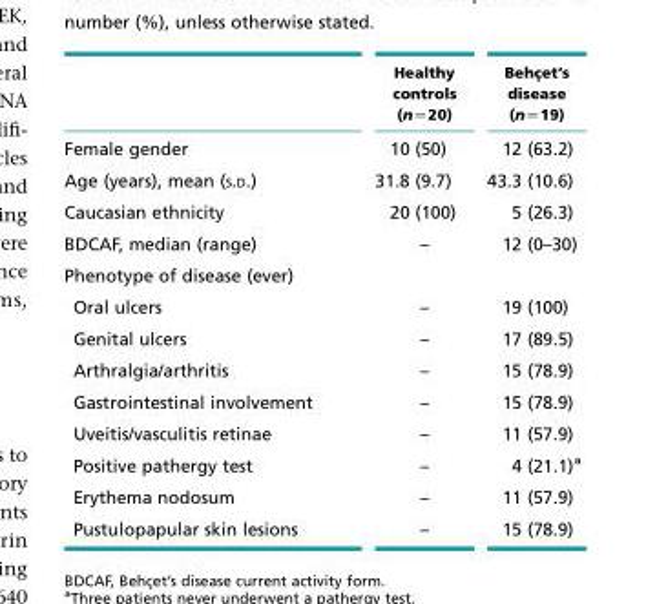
<table><thead><tr><td></td><td>Healthy controls (n=20)</td><td>Behc¸et’s disease (nZ19)</td></tr></thead><tbody><tr><td>Female gender</td><td>10 (50)</td><td>12 (63.2)</td></tr><tr><td>Age (years), mean (S.D.)</td><td>31.8 (9.7)</td><td>43.3 (10.6)</td></tr><tr><td>Caucasian ethnicity</td><td>20 (100)</td><td>5 (26.3)</td></tr><tr><td>BDCAF, median (range)</td><td>–</td><td>12 (0–30)</td></tr><tr><td colspan="3">Phenotype of disease (ever)</td></tr><tr><td>Oral ulcers</td><td>–</td><td>19 (100)</td></tr><tr><td>Genital ulcers</td><td>–</td><td>17 (89.5)</td></tr><tr><td>Arthralgia/arthritis</td><td>–</td><td>15 (78.9)</td></tr><tr><td>Gastrointestinal involvement</td><td>–</td><td>15 (78.9)</td></tr><tr><td>Uveitis/vasculitis retinae</td><td>–</td><td>11 (57.9)</td></tr><tr><td>Positive pathergy test</td><td>–</td><td>4 (21.1)<sup>a</sup></td></tr><tr><td>Erythema nodosum</td><td>–</td><td>11 (57.9)</td></tr><tr><td>Pustulopapular skin lesions</td><td>–</td><td>15 (78.9)</td></tr></tbody></table>